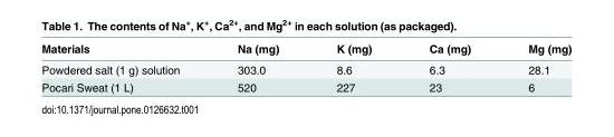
<table><thead><tr><td>Materials</td><td>Na (mg)</td><td>K (mg)</td><td>Ca (mg)</td><td>Mg (mg)</td></tr></thead><tbody><tr><td>Powdered salt (1 g) solution</td><td>303.0</td><td>8.6</td><td>6.3</td><td>28.1</td></tr><tr><td>Pocari Sweat (1 L)</td><td>520</td><td>227</td><td>23</td><td>6</td></tr></tbody></table>